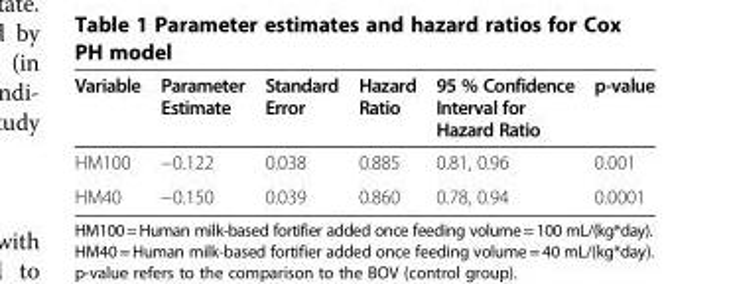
<table><thead><tr><td>Variable</td><td>Parameter Estimate</td><td>Standard Error</td><td>Hazard Ratio</td><td>95 % Confidence Interval for Hazard Ratio</td><td>p-value</td></tr></thead><tbody><tr><td>HM100</td><td>−0.122</td><td>0.038</td><td>0.885</td><td>0.81, 0.96</td><td>0.001</td></tr><tr><td>HM40</td><td>−0.150</td><td>0.039</td><td>0.860</td><td>0.78, 0.94</td><td>0.0001</td></tr></tbody></table>